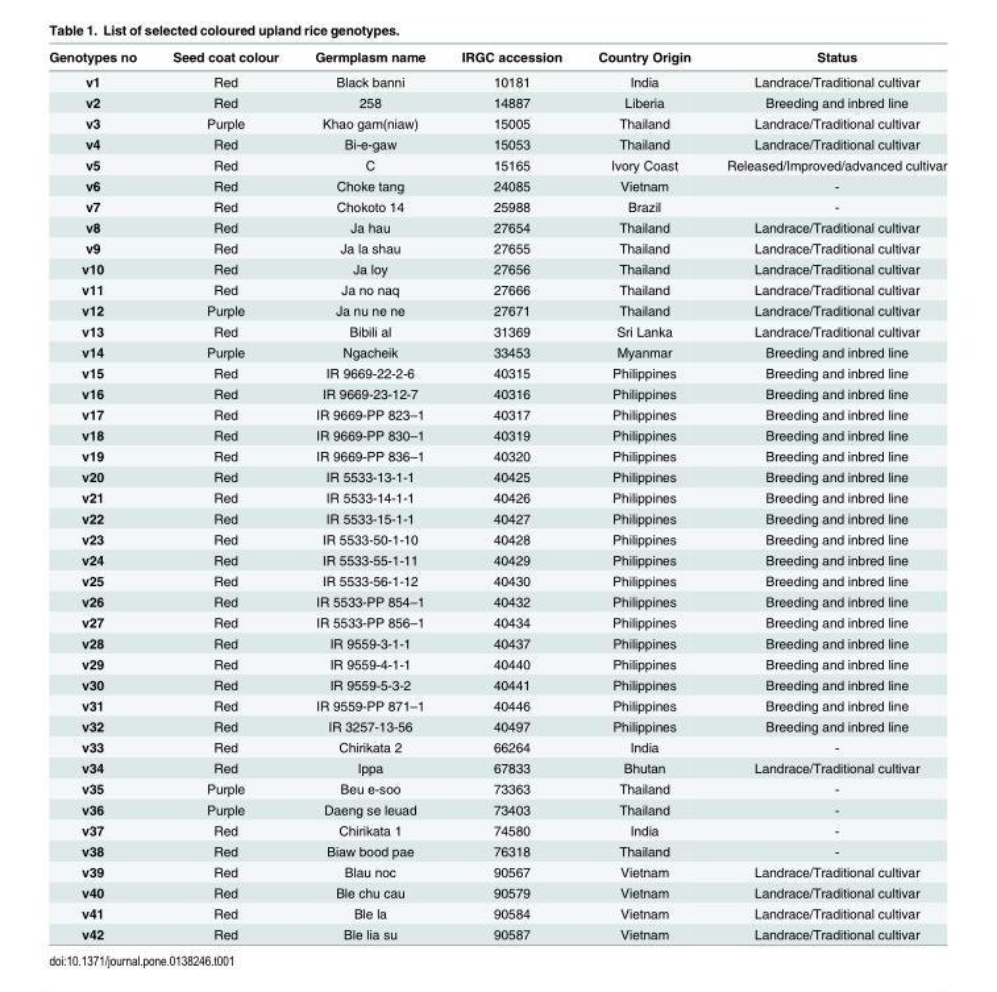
<table><thead><tr><td>Genotypes no</td><td>Seed coat colour</td><td>Germplasm name</td><td>IRGC accession</td><td>Country Origin</td><td>Status</td></tr></thead><tbody><tr><td>v1</td><td>Red</td><td>Black banni</td><td>10181</td><td>India</td><td>Landrace/Traditional cultivar</td></tr><tr><td>v2</td><td>Red</td><td>258</td><td>14887</td><td>Liberia</td><td>Breeding and inbred line</td></tr><tr><td>v3</td><td>Purple</td><td>Khao gam(niaw)</td><td>15005</td><td>Thailand</td><td>Landrace/Traditional cultivar</td></tr><tr><td>v4</td><td>Red</td><td>Bi-e-gaw</td><td>15053</td><td>Thailand</td><td>Landrace/Traditional cultivar</td></tr><tr><td>v5</td><td>Red</td><td>C</td><td>15165</td><td>Ivory Coast</td><td>Released/Improved/advanced cultivar</td></tr><tr><td>v6</td><td>Red</td><td>Choke tang</td><td>24085</td><td>Vietnam</td><td>-</td></tr><tr><td>v7</td><td>Red</td><td>Chokoto 14</td><td>25988</td><td>Brazil</td><td>-</td></tr><tr><td>v8</td><td>Red</td><td>Ja hau</td><td>27654</td><td>Thailand</td><td>Landrace/Traditional cultivar</td></tr><tr><td>v9</td><td>Red</td><td>Ja la shau</td><td>27655</td><td>Thailand</td><td>Landrace/Traditional cultivar</td></tr><tr><td>v10</td><td>Red</td><td>Ja loy</td><td>27656</td><td>Thailand</td><td>Landrace/Traditional cultivar</td></tr><tr><td>v11</td><td>Red</td><td>Ja no naq</td><td>27666</td><td>Thailand</td><td>Landrace/Traditional cultivar</td></tr><tr><td>v12</td><td>Purple</td><td>Ja nu ne ne</td><td>27671</td><td>Thailand</td><td>Landrace/Traditional cultivar</td></tr><tr><td>v13</td><td>Red</td><td>Bibili al</td><td>31369</td><td>Sri Lanka</td><td>Landrace/Traditional cultivar</td></tr><tr><td>v14</td><td>Purple</td><td>Ngacheik</td><td>33453</td><td>Myanmar</td><td>Breeding and inbred line</td></tr><tr><td>v15</td><td>Red</td><td>IR 9669-22-2-6</td><td>40315</td><td>Philippines</td><td>Breeding and inbred line</td></tr><tr><td>v16</td><td>Red</td><td>IR 9669-23-12-7</td><td>40316</td><td>Philippines</td><td>Breeding and inbred line</td></tr><tr><td>v17</td><td>Red</td><td>IR 9669-PP 823–1</td><td>40317</td><td>Philippines</td><td>Breeding and inbred line</td></tr><tr><td>v18</td><td>Red</td><td>IR 9669-PP 830–1</td><td>40319</td><td>Philippines</td><td>Breeding and inbred line</td></tr><tr><td>v19</td><td>Red</td><td>IR 9669-PP 836–1</td><td>40320</td><td>Philippines</td><td>Breeding and inbred line</td></tr><tr><td>v20</td><td>Red</td><td>IR 5533-13-1-1</td><td>40425</td><td>Philippines</td><td>Breeding and inbred line</td></tr><tr><td>v21</td><td>Red</td><td>IR 5533-14-1-1</td><td>40426</td><td>Philippines</td><td>Breeding and inbred line</td></tr><tr><td>v22</td><td>Red</td><td>IR 5533-15-1-1</td><td>40427</td><td>Philippines</td><td>Breeding and inbred line</td></tr><tr><td>v23</td><td>Red</td><td>IR 5533-50-1-10</td><td>40428</td><td>Philippines</td><td>Breeding and inbred line</td></tr><tr><td>v24</td><td>Red</td><td>IR 5533-55-1-11</td><td>40429</td><td>Philippines</td><td>Breeding and inbred line</td></tr><tr><td>v25</td><td>Red</td><td>IR 5533-56-1-12</td><td>40430</td><td>Philippines</td><td>Breeding and inbred line</td></tr><tr><td>v26</td><td>Red</td><td>IR 5533-PP 854–1</td><td>40432</td><td>Philippines</td><td>Breeding and inbred line</td></tr><tr><td>v27</td><td>Red</td><td>IR 5533-PP 856–1</td><td>40434</td><td>Philippines</td><td>Breeding and inbred line</td></tr><tr><td>v28</td><td>Red</td><td>IR 9559-3-1-1</td><td>40437</td><td>Philippines</td><td>Breeding and inbred line</td></tr><tr><td>v29</td><td>Red</td><td>IR 9559-4-1-1</td><td>40440</td><td>Philippines</td><td>Breeding and inbred line</td></tr><tr><td>v30</td><td>Red</td><td>IR 9559-5-3-2</td><td>40441</td><td>Philippines</td><td>Breeding and inbred line</td></tr><tr><td>v31</td><td>Red</td><td>IR 9559-PP 871–1</td><td>40446</td><td>Philippines</td><td>Breeding and inbred line</td></tr><tr><td>v32</td><td>Red</td><td>IR 3257-13-56</td><td>40497</td><td>Philippines</td><td>Breeding and inbred line</td></tr><tr><td>v33</td><td>Red</td><td>Chirikata 2</td><td>66264</td><td>India</td><td>-</td></tr><tr><td>v34</td><td>Red</td><td>Ippa</td><td>67833</td><td>Bhutan</td><td>Landrace/Traditional cultivar</td></tr><tr><td>v35</td><td>Purple</td><td>Beu e-soo</td><td>73363</td><td>Thailand</td><td>-</td></tr><tr><td>v36</td><td>Purple</td><td>Daeng se leuad</td><td>73403</td><td>Thailand</td><td>-</td></tr><tr><td>v37</td><td>Red</td><td>Chirikata 1</td><td>74580</td><td>India</td><td>-</td></tr><tr><td>v38</td><td>Red</td><td>Biaw bood pae</td><td>76318</td><td>Thailand</td><td>-</td></tr><tr><td>v39</td><td>Red</td><td>Blau noc</td><td>90567</td><td>Vietnam</td><td>Landrace/Traditional cultivar</td></tr><tr><td>v40</td><td>Red</td><td>Ble chu cau</td><td>90579</td><td>Vietnam</td><td>Landrace/Traditional cultivar</td></tr><tr><td>v41</td><td>Red</td><td>Ble la</td><td>90584</td><td>Vietnam</td><td>Landrace/Traditional cultivar</td></tr><tr><td>v42</td><td>Red</td><td>Ble lia su</td><td>90587</td><td>Vietnam</td><td>Landrace/Traditional cultivar</td></tr></tbody></table>